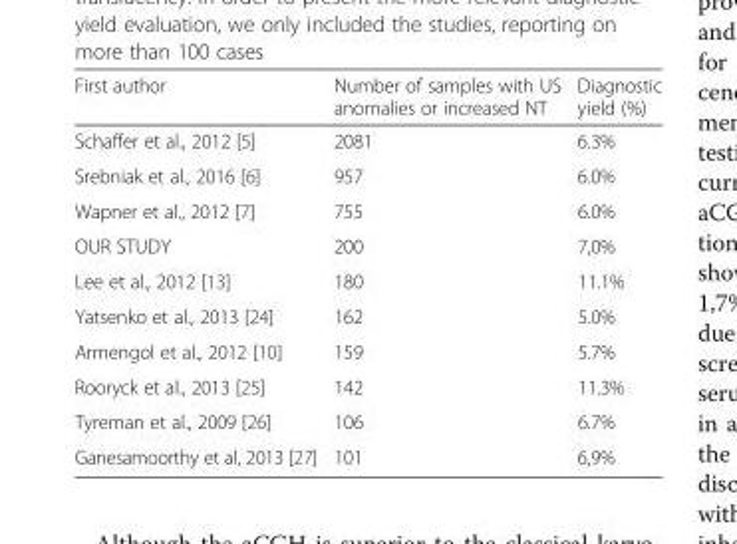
<table><thead><tr><td>First author</td><td>Number of samples with US anomalies or increased NT</td><td>Diagnostic yield (%)</td></tr></thead><tbody><tr><td>Schaffer et al., 2012 [5]</td><td>2081</td><td>6.3%</td></tr><tr><td>Srebniak et al., 2016 [6]</td><td>957</td><td>6.0%</td></tr><tr><td>Wapner et al., 2012 [7]</td><td>755</td><td>6.0%</td></tr><tr><td>OUR STUDY</td><td>200</td><td>7,0%</td></tr><tr><td>Lee et al., 2012 [13]</td><td>180</td><td>11.1%</td></tr><tr><td>Yatsenko et al., 2013 [24]</td><td>162</td><td>5.0%</td></tr><tr><td>Armengol et al., 2012 [10]</td><td>159</td><td>5.7%</td></tr><tr><td>Rooryck et al., 2013 [25]</td><td>142</td><td>11.3%</td></tr><tr><td>Tyreman et al., 2009 [26]</td><td>106</td><td>6.7%</td></tr><tr><td>Ganesamoorthy et al, 2013 [27]</td><td>101</td><td>6,9%</td></tr></tbody></table>